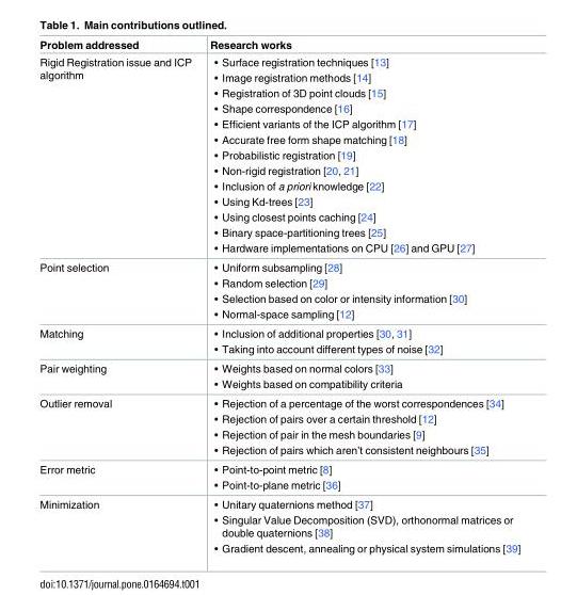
<table><thead><tr><td>Problem addressed</td><td>Research works</td></tr></thead><tbody><tr><td>Rigid Registration issue and ICP algorithm</td><td>• Surface registration techniques [13] • Image registration methods [14] • Registration of 3D point clouds [15] • Shape correspondence [16] • Efficient variants of the ICP algorithm [17] • Accurate free form shape matching [18] • Probabilistic registration [19] • Non-rigid registration [20, 21] • Inclusion of a priori knowledge [22] • Using Kd-trees [23] • Using closest points caching [24] • Binary space-partitioning trees [25] • Hardware implementations on CPU [26] and GPU [27]</td></tr><tr><td>Point selection</td><td>• Uniform subsampling [28] • Random selection [29] • Selection based on color or intensity information [30] • Normal-space sampling [12]</td></tr><tr><td>Matching</td><td>• Inclusion of additional properties [30, 31] • Taking into account different types of noise [32]</td></tr><tr><td>Pair weighting</td><td>• Weights based on normal colors [33] • Weights based on compatibility criteria</td></tr><tr><td>Outlier removal</td><td>• Rejection of a percentage of the worst correspondences [34] • Rejection of pairs over a certain threshold [12] • Rejection of pair in the mesh boundaries [9] • Rejection of pairs which aren’t consistent neighbours [35]</td></tr><tr><td>Error metric</td><td>• Point-to-point metric [8] • Point-to-plane metric [36]</td></tr><tr><td>Minimization</td><td>• Unitary quaternions method [37] • Singular Value Decomposition (SVD), orthonormal matrices or double quaternions [38] • Gradient descent, annealing or physical system simulations [39]</td></tr></tbody></table>